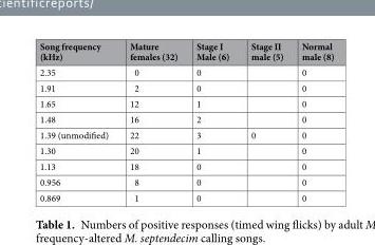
<table><thead><tr><td>Song frequency (kHz)</td><td>Mature females (32)</td><td>Stage I Male (6)</td><td>Stage II male (5)</td><td>Normal male (8)</td></tr></thead><tbody><tr><td>2.35</td><td>0</td><td>0</td><td></td><td>0</td></tr><tr><td>1.91</td><td>2</td><td>0</td><td></td><td>0</td></tr><tr><td>1.65</td><td>12</td><td>1</td><td></td><td>0</td></tr><tr><td>1.48</td><td>16</td><td>2</td><td></td><td>0</td></tr><tr><td>1.39 (unmodified)</td><td>22</td><td>3</td><td>0</td><td>0</td></tr><tr><td>1.30</td><td>20</td><td>1</td><td></td><td>0</td></tr><tr><td>1.13</td><td>18</td><td>0</td><td></td><td>0</td></tr><tr><td>0.956</td><td>8</td><td>0</td><td></td><td>0</td></tr><tr><td>0.869</td><td>1</td><td>0</td><td></td><td>0</td></tr></tbody></table>